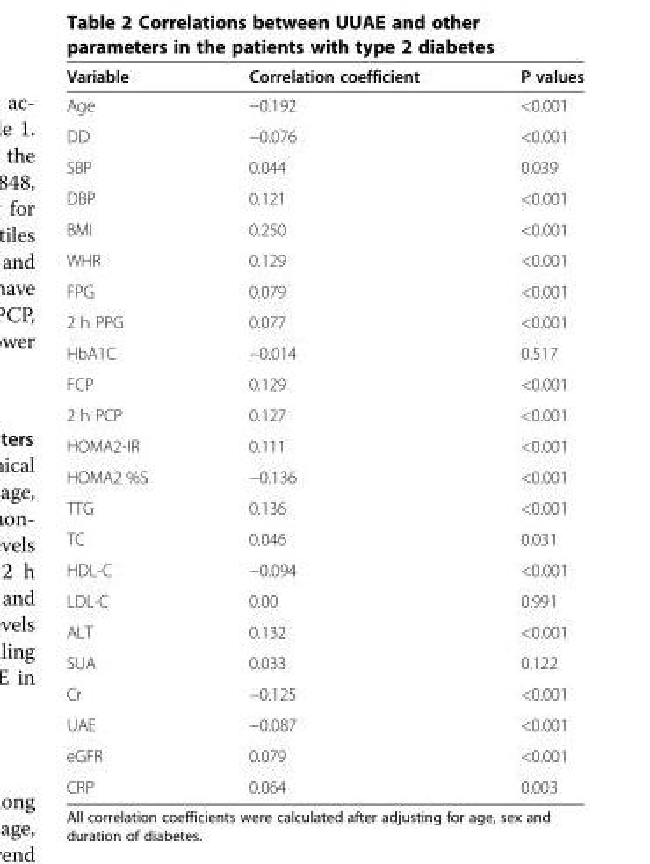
<table><thead><tr><td>Variable</td><td>Correlation coefficient</td><td>P values</td></tr></thead><tbody><tr><td>Age</td><td>−0.192</td><td>&lt;0.001</td></tr><tr><td>DD</td><td>−0.076</td><td>&lt;0.001</td></tr><tr><td>SBP</td><td>0.044</td><td>0.039</td></tr><tr><td>DBP</td><td>0.121</td><td>&lt;0.001</td></tr><tr><td>BMI</td><td>0.250</td><td>&lt;0.001</td></tr><tr><td>WHR</td><td>0.129</td><td>&lt;0.001</td></tr><tr><td>FPG</td><td>0.079</td><td>&lt;0.001</td></tr><tr><td>2 h PPG</td><td>0.077</td><td>&lt;0.001</td></tr><tr><td>HbA1C</td><td>−0.014</td><td>0.517</td></tr><tr><td>FCP</td><td>0.129</td><td>&lt;0.001</td></tr><tr><td>2 h PCP</td><td>0.127</td><td>&lt;0.001</td></tr><tr><td>HOMA2-IR</td><td>0.111</td><td>&lt;0.001</td></tr><tr><td>HOMA2 %S</td><td>−0.136</td><td>&lt;0.001</td></tr><tr><td>TTG</td><td>0.136</td><td>&lt;0.001</td></tr><tr><td>TC</td><td>0.046</td><td>0.031</td></tr><tr><td>HDL-C</td><td>−0.094</td><td>&lt;0.001</td></tr><tr><td>LDL-C</td><td>0.00</td><td>0.991</td></tr><tr><td>ALT</td><td>0.132</td><td>&lt;0.001</td></tr><tr><td>SUA</td><td>0.033</td><td>0.122</td></tr><tr><td>Cr</td><td>−0.125</td><td>&lt;0.001</td></tr><tr><td>UAE</td><td>−0.087</td><td>&lt;0.001</td></tr><tr><td>eGFR</td><td>0.079</td><td>&lt;0.001</td></tr><tr><td>CRP</td><td>0.064</td><td>0.003</td></tr></tbody></table>